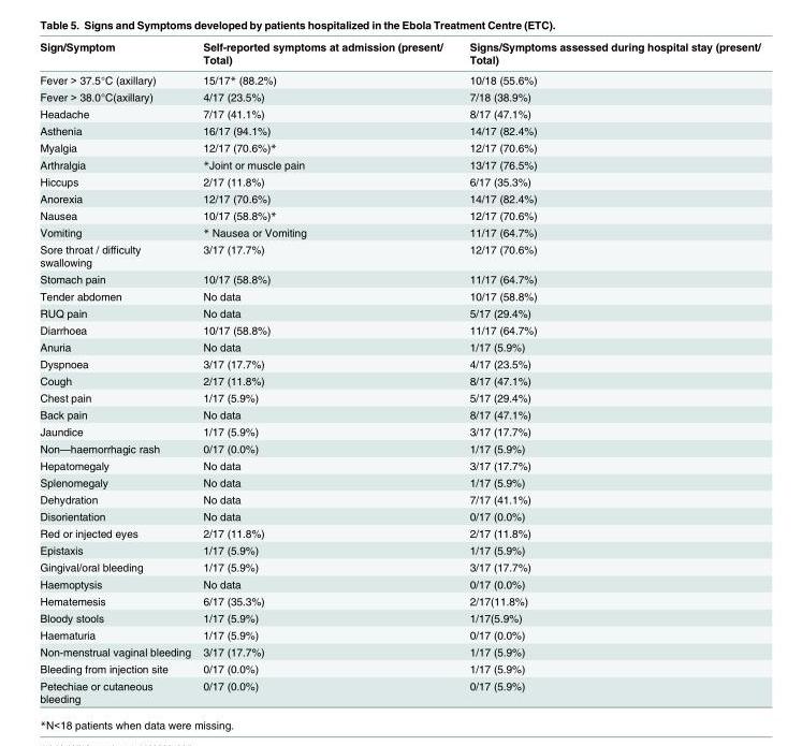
<table><thead><tr><td>Sign/Symptom</td><td>Self-reported symptoms at admission (present/ Total)</td><td>Signs/Symptoms assessed during hospital stay (present/ Total)</td></tr></thead><tbody><tr><td>Fever &gt; 37.5°C (axillary)</td><td>15/17* (88.2%)</td><td>10/18 (55.6%)</td></tr><tr><td>Fever &gt; 38.0°C(axillary)</td><td>4/17 (23.5%)</td><td>7/18 (38.9%)</td></tr><tr><td>Headache</td><td>7/17 (41.1%)</td><td>8/17 (47.1%)</td></tr><tr><td>Asthenia</td><td>16/17 (94.1%)</td><td>14/17 (82.4%)</td></tr><tr><td>Myalgia</td><td>12/17 (70.6%)*</td><td>12/17 (70.6%)</td></tr><tr><td>Arthralgia</td><td>*Joint or muscle pain</td><td>13/17 (76.5%)</td></tr><tr><td>Hiccups</td><td>2/17 (11.8%)</td><td>6/17 (35.3%)</td></tr><tr><td>Anorexia</td><td>12/17 (70.6%)</td><td>14/17 (82.4%)</td></tr><tr><td>Nausea</td><td>10/17 (58.8%)*</td><td>12/17 (70.6%)</td></tr><tr><td>Vomiting</td><td>* Nausea or Vomiting</td><td>11/17 (64.7%)</td></tr><tr><td>Sore throat / difficulty swallowing</td><td>3/17 (17.7%)</td><td>12/17 (70.6%)</td></tr><tr><td>Stomach pain</td><td>10/17 (58.8%)</td><td>11/17 (64.7%)</td></tr><tr><td>Tender abdomen</td><td>No data</td><td>10/17 (58.8%)</td></tr><tr><td>RUQ pain</td><td>No data</td><td>5/17 (29.4%)</td></tr><tr><td>Diarrhoea</td><td>10/17 (58.8%)</td><td>11/17 (64.7%)</td></tr><tr><td>Anuria</td><td>No data</td><td>1/17 (5.9%)</td></tr><tr><td>Dyspnoea</td><td>3/17 (17.7%)</td><td>4/17 (23.5%)</td></tr><tr><td>Cough</td><td>2/17 (11.8%)</td><td>8/17 (47.1%)</td></tr><tr><td>Chest pain</td><td>1/17 (5.9%)</td><td>5/17 (29.4%)</td></tr><tr><td>Back pain</td><td>No data</td><td>8/17 (47.1%)</td></tr><tr><td>Jaundice</td><td>1/17 (5.9%)</td><td>3/17 (17.7%)</td></tr><tr><td>Non—haemorrhagic rash</td><td>0/17 (0.0%)</td><td>1/17 (5.9%)</td></tr><tr><td>Hepatomegaly</td><td>No data</td><td>3/17 (17.7%)</td></tr><tr><td>Splenomegaly</td><td>No data</td><td>1/17 (5.9%)</td></tr><tr><td>Dehydration</td><td>No data</td><td>7/17 (41.1%)</td></tr><tr><td>Disorientation</td><td>No data</td><td>0/17 (0.0%)</td></tr><tr><td>Red or injected eyes</td><td>2/17 (11.8%)</td><td>2/17 (11.8%)</td></tr><tr><td>Epistaxis</td><td>1/17 (5.9%)</td><td>1/17 (5.9%)</td></tr><tr><td>Gingival/oral bleeding</td><td>1/17 (5.9%)</td><td>3/17 (17.7%)</td></tr><tr><td>Haemoptysis</td><td>No data</td><td>0/17 (0.0%)</td></tr><tr><td>Hematemesis</td><td>6/17 (35.3%)</td><td>2/17(11.8%)</td></tr><tr><td>Bloody stools</td><td>1/17 (5.9%)</td><td>1/17(5.9%)</td></tr><tr><td>Haematuria</td><td>1/17 (5.9%)</td><td>0/17 (0.0%)</td></tr><tr><td>Non-menstrual vaginal bleeding</td><td>3/17 (17.7%)</td><td>1/17 (5.9%)</td></tr><tr><td>Bleeding from injection site</td><td>0/17 (0.0%)</td><td>1/17 (5.9%)</td></tr><tr><td>Petechiae or cutaneous bleeding</td><td>0/17 (0.0%)</td><td>0/17 (5.9%)</td></tr></tbody></table>